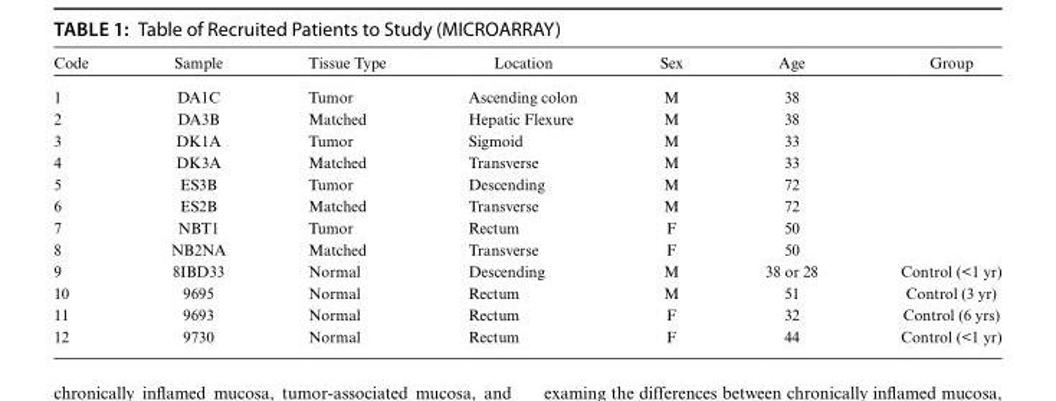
<table><thead><tr><td>Code</td><td>Sample</td><td>Tissue Type</td><td>Location</td><td>Sex</td><td>Age</td><td>Group</td></tr></thead><tbody><tr><td>1</td><td>DA1C</td><td>Tumor</td><td>Ascending colon</td><td>M</td><td>38</td><td></td></tr><tr><td>2</td><td>DA3B</td><td>Matched</td><td>Hepatic Flexure</td><td>M</td><td>38</td><td></td></tr><tr><td>3</td><td>DK1A</td><td>Tumor</td><td>Sigmoid</td><td>M</td><td>33</td><td></td></tr><tr><td>4</td><td>DK3A</td><td>Matched</td><td>Transverse</td><td>M</td><td>33</td><td></td></tr><tr><td>5</td><td>ES3B</td><td>Tumor</td><td>Descending</td><td>M</td><td>72</td><td></td></tr><tr><td>6</td><td>ES2B</td><td>Matched</td><td>Transverse</td><td>M</td><td>72</td><td></td></tr><tr><td>7</td><td>NBT1</td><td>Tumor</td><td>Rectum</td><td>F</td><td>50</td><td></td></tr><tr><td>8</td><td>NB2NA</td><td>Matched</td><td>Transverse</td><td>F</td><td>50</td><td></td></tr><tr><td>9</td><td>8IBD33</td><td>Normal</td><td>Descending</td><td>M</td><td>38 or 28</td><td>Control (&lt;1 yr)</td></tr><tr><td>10</td><td>9695</td><td>Normal</td><td>Rectum</td><td>M</td><td>51</td><td>Control (3 yr)</td></tr><tr><td>11</td><td>9693</td><td>Normal</td><td>Rectum</td><td>F</td><td>32</td><td>Control (6 yrs)</td></tr><tr><td>12</td><td>9730</td><td>Normal</td><td>Rectum</td><td>F</td><td>44</td><td>Control (&lt;1 yr)</td></tr></tbody></table>